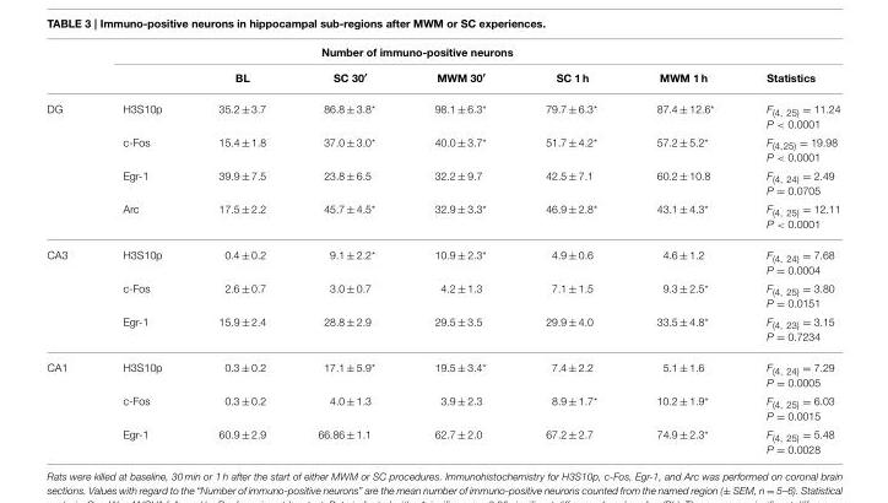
<table><thead><tr><td colspan="8">Number of immuno-positive neurons</td></tr><tr><td></td><td></td><td>BL</td><td>SC 30′</td><td>MWM 30′</td><td>SC 1 h</td><td>MWM 1 h</td><td>Statistics</td></tr></thead><tbody><tr><td rowspan="4">DG</td><td>H3S10p</td><td>35.2 ± 3.7</td><td>86.8 ± 3.8*</td><td>98.1 ± 6.3*</td><td>79.7 ± 6.3*</td><td>87.4 ± 12.6*</td><td>F<sub>(4, 25)</sub> = 11.24 P &lt; 0.0001</td></tr><tr><td>c-Fos</td><td>15.4 ± 1.8</td><td>37.0 ± 3.0*</td><td>40.0 ± 3.7*</td><td>51.7 ± 4.2*</td><td>57.2 ± 5.2*</td><td>F<sub>(4,25)</sub> = 19.98 P &lt; 0.0001</td></tr><tr><td>Egr-1</td><td>39.9 ± 7.5</td><td>23.8 ± 6.5</td><td>32.2 ± 9.7</td><td>42.5 ± 7.1</td><td>60.2 ± 10.8</td><td>F<sub>(4, 24)</sub> = 2.49 P = 0.0705</td></tr><tr><td>Arc</td><td>17.5 ± 2.2</td><td>45.7 ± 4.5*</td><td>32.9 ± 3.3*</td><td>46.9 ± 2.8*</td><td>43.1 ± 4.3*</td><td>F<sub>(4, 25)</sub> = 12.11 P &lt; 0.0001</td></tr><tr><td rowspan="3">CA3</td><td>H3S10p</td><td>0.4 ± 0.2</td><td>9.1 ± 2.2*</td><td>10.9 ± 2.3*</td><td>4.9 ± 0.6</td><td>4.6 ± 1.2</td><td>F<sub>(4, 24)</sub> = 7.68 P = 0.0004</td></tr><tr><td>c-Fos</td><td>2.6 ± 0.7</td><td>3.0 ± 0.7</td><td>4.2 ± 1.3</td><td>7.1 ± 1.5</td><td>9.3 ± 2.5*</td><td>F<sub>(4, 25)</sub> = 3.80 P = 0.0151</td></tr><tr><td>Egr-1</td><td>15.9 ± 2.4</td><td>28.8 ± 2.9</td><td>29.5 ± 3.5</td><td>29.9 ± 4.0</td><td>33.5 ± 4.8*</td><td>F<sub>(4, 23)</sub> = 3.15 P = 0.7234</td></tr><tr><td rowspan="3">CA1</td><td>H3S10p</td><td>0.3 ± 0.2</td><td>17.1 ± 5.9*</td><td>19.5 ± 3.4*</td><td>7.4 ± 2.2</td><td>5.1 ± 1.6</td><td>F<sub>(4, 24)</sub> = 7.29 P = 0.0005</td></tr><tr><td>c-Fos</td><td>0.3 ± 0.2</td><td>4.0 ± 1.3</td><td>3.9 ± 2.3</td><td>8.9 ± 1.7*</td><td>10.2 ± 1.9*</td><td>F<sub>(4, 25)</sub> = 6.03 P = 0.0015</td></tr><tr><td>Egr-1</td><td>60.9 ± 2.9</td><td>66.86 ± 1.1</td><td>62.7 ± 2.0</td><td>67.2 ± 2.7</td><td>74.9 ± 2.3*</td><td>F<sub>(4, 25)</sub> = 5.48 P = 0.0028</td></tr></tbody></table>